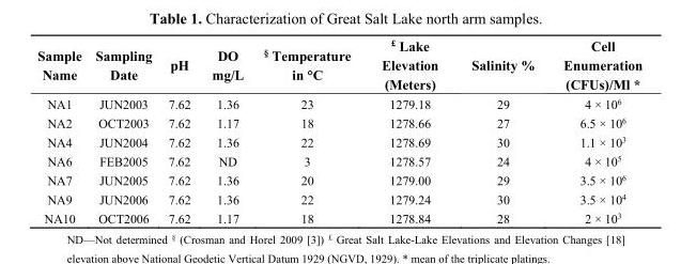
<table><thead><tr><td>Sample Name</td><td>Sampling Date</td><td>pH</td><td>DO mg/L</td><td><sup>§</sup> Temperature in °C</td><td><sup>£</sup> Lake Elevation (Meters)</td><td>Salinity %</td><td>Cell Enumeration (CFUs)/Ml *</td></tr></thead><tbody><tr><td>NA1</td><td>JUN2003</td><td>7.62</td><td>1.36</td><td>23</td><td>1279.18</td><td>29</td><td>4 × 10<sup>6</sup></td></tr><tr><td>NA2</td><td>OCT2003</td><td>7.62</td><td>1.17</td><td>18</td><td>1278.66</td><td>27</td><td>6.5 × 10<sup>6</sup></td></tr><tr><td>NA4</td><td>JUN2004</td><td>7.62</td><td>1.36</td><td>22</td><td>1278.69</td><td>30</td><td>1.1 × 10<sup>3</sup></td></tr><tr><td>NA6</td><td>FEB2005</td><td>7.62</td><td>ND</td><td>3</td><td>1278.57</td><td>24</td><td>4 × 10<sup>5</sup></td></tr><tr><td>NA7</td><td>JUN2005</td><td>7.62</td><td>1.36</td><td>20</td><td>1279.00</td><td>29</td><td>3.5 × 10<sup>6</sup></td></tr><tr><td>NA9</td><td>JUN2006</td><td>7.62</td><td>1.36</td><td>22</td><td>1279.24</td><td>30</td><td>3.5 × 10<sup>4</sup></td></tr><tr><td>NA10</td><td>OCT2006</td><td>7.62</td><td>1.17</td><td>18</td><td>1278.84</td><td>28</td><td>2 × 10<sup>3</sup></td></tr></tbody></table>